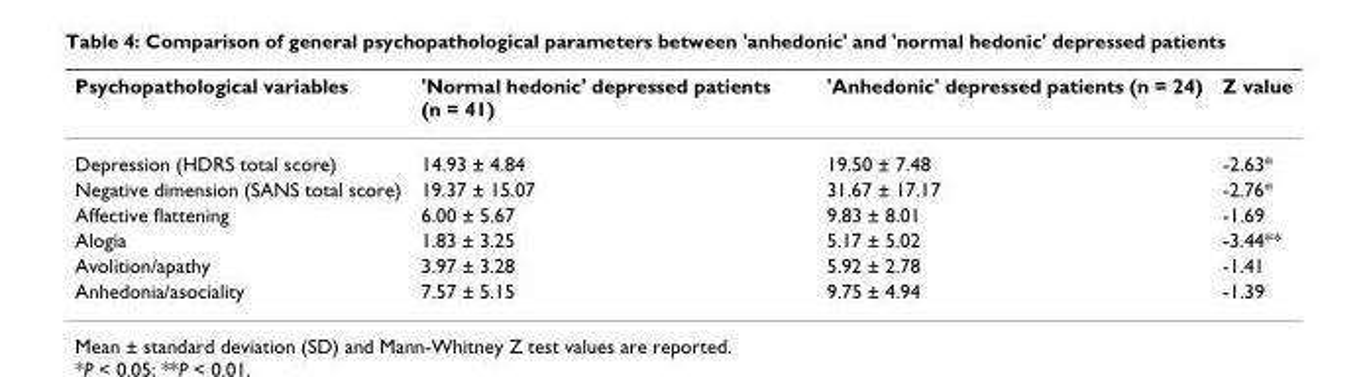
<table><thead><tr><td>Psychopathological variables</td><td>&#x27;Normal hedonic&#x27; depressed patients (n = 41)</td><td>&#x27;Anhedonic&#x27; depressed patients (n = 24)</td><td>Z value</td></tr></thead><tbody><tr><td>Depression (HDRS total score)</td><td>14.93 ± 4.84</td><td>19.50 ± 7.48</td><td>-2.63*</td></tr><tr><td>Negative dimension (SANS total score)</td><td>19.37 ± 15.07</td><td>31.67 ± 17.17</td><td>-2.76*</td></tr><tr><td>Affective flattening</td><td>6.00 ± 5.67</td><td>9.83 ± 8.01</td><td>-1.69</td></tr><tr><td>Alogia</td><td>1.83 ± 3.25</td><td>5.17 ± 5.02</td><td>-3.44**</td></tr><tr><td>Avolition/apathy</td><td>3.97 ± 3.28</td><td>5.92 ± 2.78</td><td>-1.41</td></tr><tr><td>Anhedonia/asociality</td><td>7.57 ± 5.15</td><td>9.75 ± 4.94</td><td>-1.39</td></tr></tbody></table>